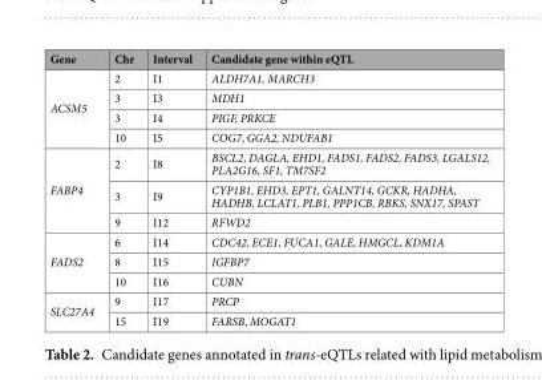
<table><thead><tr><td>Gene</td><td>Chr</td><td>Interval</td><td>Candidate gene within eQTL</td></tr></thead><tbody><tr><td rowspan="4">ACSM5</td><td>2</td><td>I1</td><td>ALDH7A1, MARCH3</td></tr><tr><td>3</td><td>I3</td><td>MDH1</td></tr><tr><td>3</td><td>I4</td><td>PIGF, PRKCE</td></tr><tr><td>10</td><td>I5</td><td>COG7, GGA2, NDUFAB1</td></tr><tr><td rowspan="3">FABP4</td><td>2</td><td>I8</td><td>BSCL2, DAGLA, EHD1, FADS1, FADS2, FADS3, LGALS12, PLA2G16, SF1, TM7SF2</td></tr><tr><td>3</td><td>I9</td><td>CYP1B1, EHD3, EPT1, GALNT14, GCKR, HADHA, HADHB, LCLAT1, PLB1, PPP1CB, RBKS, SNX17, SPAST</td></tr><tr><td>9</td><td>I12</td><td>RFWD2</td></tr><tr><td rowspan="3">FADS2</td><td>6</td><td>I14</td><td>CDC42, ECE1, FUCA1, GALE, HMGCL, KDM1A</td></tr><tr><td>8</td><td>I15</td><td>IGFBP7</td></tr><tr><td>10</td><td>I16</td><td>CUBN</td></tr><tr><td rowspan="2">SLC27A4</td><td>9</td><td>I17</td><td>PRCP</td></tr><tr><td>15</td><td>I19</td><td>FARSB, MOGAT1</td></tr></tbody></table>